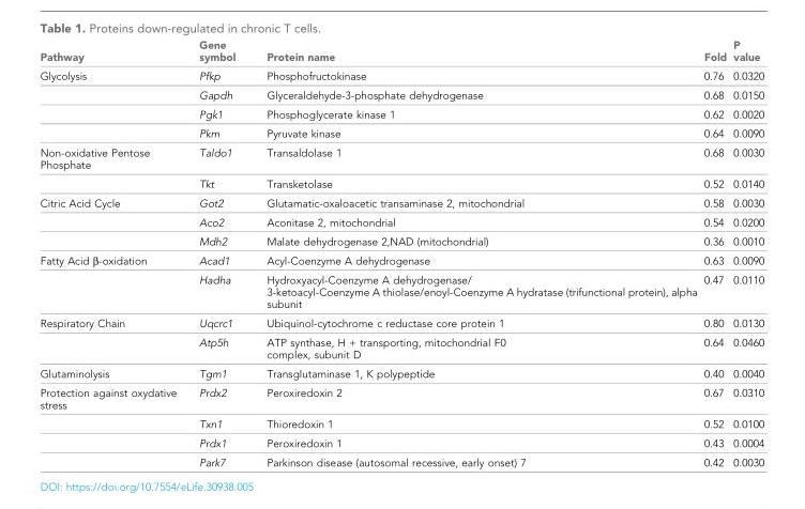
<table><thead><tr><td>Pathway</td><td>Gene symbol</td><td>Protein name</td><td>Fold</td><td>P value</td></tr></thead><tbody><tr><td rowspan="4">Glycolysis</td><td>Pfkp</td><td>Phosphofructokinase</td><td>0.76</td><td>0.0320</td></tr><tr><td>Gapdh</td><td>Glyceraldehyde-3-phosphate dehydrogenase</td><td>0.68</td><td>0.0150</td></tr><tr><td>Pgk1</td><td>Phosphoglycerate kinase 1</td><td>0.62</td><td>0.0020</td></tr><tr><td>Pkm</td><td>Pyruvate kinase</td><td>0.64</td><td>0.0090</td></tr><tr><td rowspan="2">Non-oxidative Pentose Phosphate</td><td>Taldo1</td><td>Transaldolase 1</td><td>0.68</td><td>0.0030</td></tr><tr><td>Tkt</td><td>Transketolase</td><td>0.52</td><td>0.0140</td></tr><tr><td rowspan="3">Citric Acid Cycle</td><td>Got2</td><td>Glutamatic-oxaloacetic transaminase 2, mitochondrial</td><td>0.58</td><td>0.0030</td></tr><tr><td>Aco2</td><td>Aconitase 2, mitochondrial</td><td>0.54</td><td>0.0200</td></tr><tr><td>Mdh2</td><td>Malate dehydrogenase 2,NAD (mitochondrial)</td><td>0.36</td><td>0.0010</td></tr><tr><td rowspan="2">Fatty Acid β-oxidation</td><td>Acad1</td><td>Acyl-Coenzyme A dehydrogenase</td><td>0.63</td><td>0.0090</td></tr><tr><td>Hadha</td><td>Hydroxyacyl-Coenzyme A dehydrogenase/ 3-ketoacyl-Coenzyme A thiolase/enoyl-Coenzyme A hydratase (trifunctional protein), alpha subunit</td><td>0.47</td><td>0.0110</td></tr><tr><td rowspan="2">Respiratory Chain</td><td>Uqcrc1</td><td>Ubiquinol-cytochrome c reductase core protein 1</td><td>0.80</td><td>0.0130</td></tr><tr><td>Atp5h</td><td>ATP synthase, H + transporting, mitochondrial F0 complex, subunit D</td><td>0.64</td><td>0.0460</td></tr><tr><td>Glutaminolysis</td><td>Tgm1</td><td>Transglutaminase 1, K polypeptide</td><td>0.40</td><td>0.0040</td></tr><tr><td rowspan="4">Protection against oxydative stress</td><td>Prdx2</td><td>Peroxiredoxin 2</td><td>0.67</td><td>0.0310</td></tr><tr><td>Txn1</td><td>Thioredoxin 1</td><td>0.52</td><td>0.0100</td></tr><tr><td>Prdx1</td><td>Peroxiredoxin 1</td><td>0.43</td><td>0.0004</td></tr><tr><td>Park7</td><td>Parkinson disease (autosomal recessive, early onset) 7</td><td>0.42</td><td>0.0030</td></tr></tbody></table>